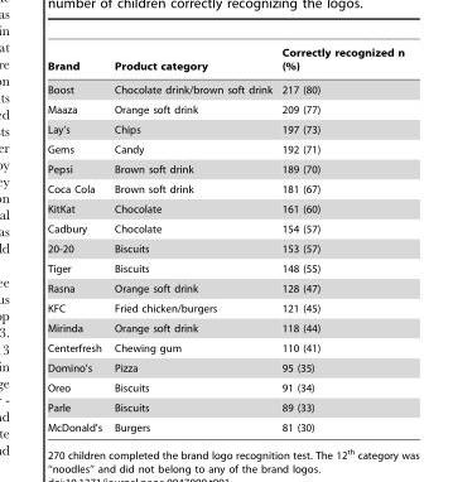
<table><thead><tr><td>Brand</td><td>Product category</td><td>Correctly recognized n (%)</td></tr></thead><tbody><tr><td>Boost</td><td>Chocolate drink/brown soft drink</td><td>217 (80)</td></tr><tr><td>Maaza</td><td>Orange soft drink</td><td>209 (77)</td></tr><tr><td>Lay’s</td><td>Chips</td><td>197 (73)</td></tr><tr><td>Gems</td><td>Candy</td><td>192 (71)</td></tr><tr><td>Pepsi</td><td>Brown soft drink</td><td>189 (70)</td></tr><tr><td>Coca Cola</td><td>Brown soft drink</td><td>181 (67)</td></tr><tr><td>KitKat</td><td>Chocolate</td><td>161 (60)</td></tr><tr><td>Cadbury</td><td>Chocolate</td><td>154 (57)</td></tr><tr><td>20-20</td><td>Biscuits</td><td>153 (57)</td></tr><tr><td>Tiger</td><td>Biscuits</td><td>148 (55)</td></tr><tr><td>Rasna</td><td>Orange soft drink</td><td>128 (47)</td></tr><tr><td>KFC</td><td>Fried chicken/burgers</td><td>121 (45)</td></tr><tr><td>Mirinda</td><td>Orange soft drink</td><td>118 (44)</td></tr><tr><td>Centerfresh</td><td>Chewing gum</td><td>110 (41)</td></tr><tr><td>Domino’s</td><td>Pizza</td><td>95 (35)</td></tr><tr><td>Oreo</td><td>Biscuits</td><td>91 (34)</td></tr><tr><td>Parle</td><td>Biscuits</td><td>89 (33)</td></tr><tr><td>McDonald’s</td><td>Burgers</td><td>81 (30)</td></tr></tbody></table>